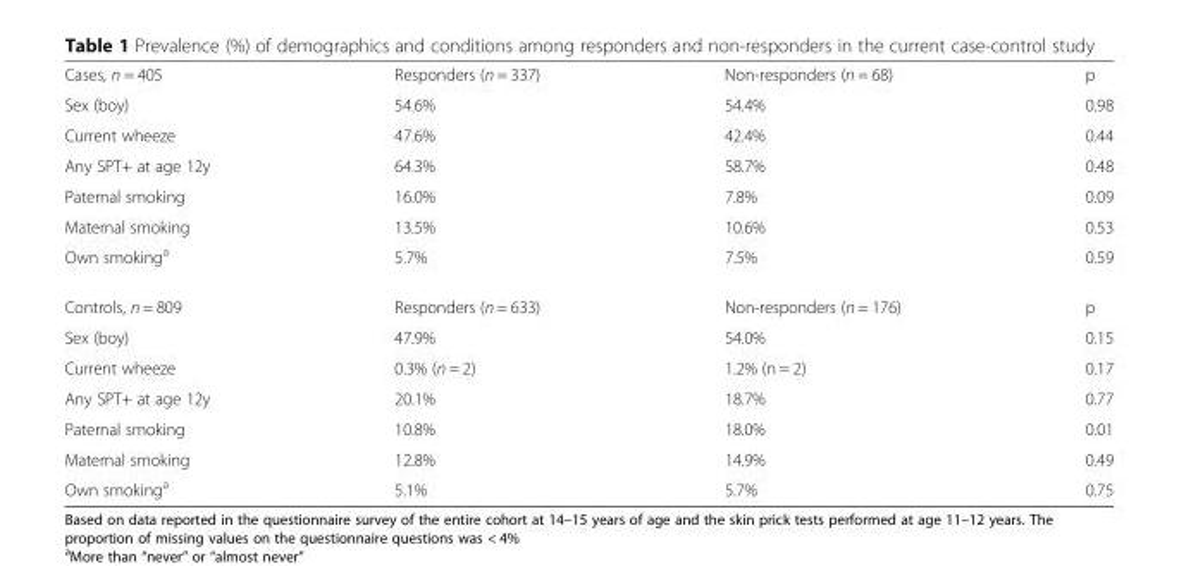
<table><tbody><tr><td>Cases, n = 405</td><td>Responders (n = 337)</td><td>Non-responders (n = 68)</td><td>p</td></tr><tr><td>Sex (boy)</td><td>54.6%</td><td>54.4%</td><td>0.98</td></tr><tr><td>Current wheeze</td><td>47.6%</td><td>42.4%</td><td>0.44</td></tr><tr><td>Any SPT+ at age 12y</td><td>64.3%</td><td>58.7%</td><td>0.48</td></tr><tr><td>Paternal smoking</td><td>16.0%</td><td>7.8%</td><td>0.09</td></tr><tr><td>Maternal smoking</td><td>13.5%</td><td>10.6%</td><td>0.53</td></tr><tr><td>Own smoking<sup>a</sup></td><td>5.7%</td><td>7.5%</td><td>0.59</td></tr><tr><td>Controls, n = 809</td><td>Responders (n = 633)</td><td>Non-responders (n = 176)</td><td>p</td></tr><tr><td>Sex (boy)</td><td>47.9%</td><td>54.0%</td><td>0.15</td></tr><tr><td>Current wheeze</td><td>0.3% (n = 2)</td><td>1.2% (n = 2)</td><td>0.17</td></tr><tr><td>Any SPT+ at age 12y</td><td>20.1%</td><td>18.7%</td><td>0.77</td></tr><tr><td>Paternal smoking</td><td>10.8%</td><td>18.0%</td><td>0.01</td></tr><tr><td>Maternal smoking</td><td>12.8%</td><td>14.9%</td><td>0.49</td></tr><tr><td>Own smoking<sup>a</sup></td><td>5.1%</td><td>5.7%</td><td>0.75</td></tr></tbody></table>